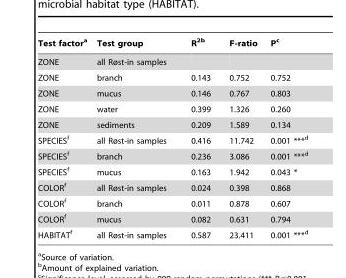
<table><thead><tr><td>Test factor<sup>a</sup></td><td>Test group</td><td>R<sup>2</sup>b</td><td>F-ratio</td><td>P<sup>c</sup></td></tr></thead><tbody><tr><td>ZONE</td><td>all Røst-in samples</td><td></td><td></td><td></td></tr><tr><td>ZONE</td><td>branch</td><td>0.143</td><td>0.752</td><td>0.752</td></tr><tr><td>ZONE</td><td>mucus</td><td>0.146</td><td>0.767</td><td>0.803</td></tr><tr><td>ZONE</td><td>water</td><td>0.399</td><td>1.326</td><td>0.260</td></tr><tr><td>ZONE</td><td>sediments</td><td>0.209</td><td>1.589</td><td>0.134</td></tr><tr><td>SPECIES<sup>f</sup></td><td>all Røst-in samples</td><td>0.416</td><td>11.742</td><td>0.001 ***<sup>d</sup></td></tr><tr><td>SPECIES<sup>f</sup></td><td>branch</td><td>0.236</td><td>3.086</td><td>0.001 ***<sup>d</sup></td></tr><tr><td>SPECIES<sup>f</sup></td><td>mucus</td><td>0.163</td><td>1.942</td><td>0.043 *</td></tr><tr><td>COLOR<sup>f</sup></td><td>all Røst-in samples</td><td>0.024</td><td>0.398</td><td>0.868</td></tr><tr><td>COLOR<sup>f</sup></td><td>branch</td><td>0.011</td><td>0.878</td><td>0.607</td></tr><tr><td>COLOR<sup>f</sup></td><td>mucus</td><td>0.082</td><td>0.631</td><td>0.794</td></tr><tr><td>HABITAT<sup>f</sup></td><td>all Røst-in samples</td><td>0.587</td><td>23.411</td><td>0.001 ***<sup>d</sup></td></tr></tbody></table>